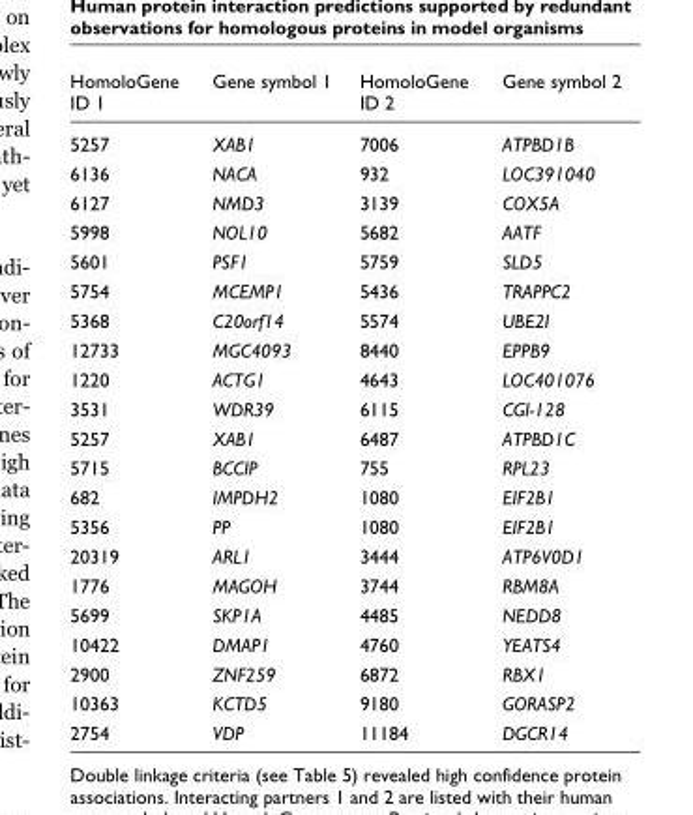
<table><thead><tr><td>HomoloGene ID 1</td><td>Gene symbol 1</td><td>HomoloGene ID 2</td><td>Gene symbol 2</td></tr></thead><tbody><tr><td>5257</td><td>XAB1</td><td>7006</td><td>ATPBD1B</td></tr><tr><td>6136</td><td>NACA</td><td>932</td><td>LOC391040</td></tr><tr><td>6127</td><td>NMD3</td><td>3139</td><td>COX5A</td></tr><tr><td>5998</td><td>NOL10</td><td>5682</td><td>AATF</td></tr><tr><td>5601</td><td>PSF1</td><td>5759</td><td>SLD5</td></tr><tr><td>5754</td><td>MCEMP1</td><td>5436</td><td>TRAPPC2</td></tr><tr><td>5368</td><td>C20orf14</td><td>5574</td><td>UBE2I</td></tr><tr><td>12733</td><td>MGC4093</td><td>8440</td><td>EPPB9</td></tr><tr><td>1220</td><td>ACTG1</td><td>4643</td><td>LOC401076</td></tr><tr><td>3531</td><td>WDR39</td><td>6115</td><td>CGI-128</td></tr><tr><td>5257</td><td>XAB1</td><td>6487</td><td>ATPBD1C</td></tr><tr><td>5715</td><td>BCCIP</td><td>755</td><td>RPL23</td></tr><tr><td>682</td><td>IMPDH2</td><td>1080</td><td>EIF2B1</td></tr><tr><td>5356</td><td>PP</td><td>1080</td><td>EIF2B1</td></tr><tr><td>20319</td><td>ARL1</td><td>3444</td><td>ATP6V0D1</td></tr><tr><td>1776</td><td>MAGOH</td><td>3744</td><td>RBM8A</td></tr><tr><td>5699</td><td>SKP1A</td><td>4485</td><td>NEDD8</td></tr><tr><td>10422</td><td>DMAP1</td><td>4760</td><td>YEATS4</td></tr><tr><td>2900</td><td>ZNF259</td><td>6872</td><td>RBX1</td></tr><tr><td>10363</td><td>KCTD5</td><td>9180</td><td>GORASP2</td></tr><tr><td>2754</td><td>VDP</td><td>11184</td><td>DGCR14</td></tr></tbody></table>